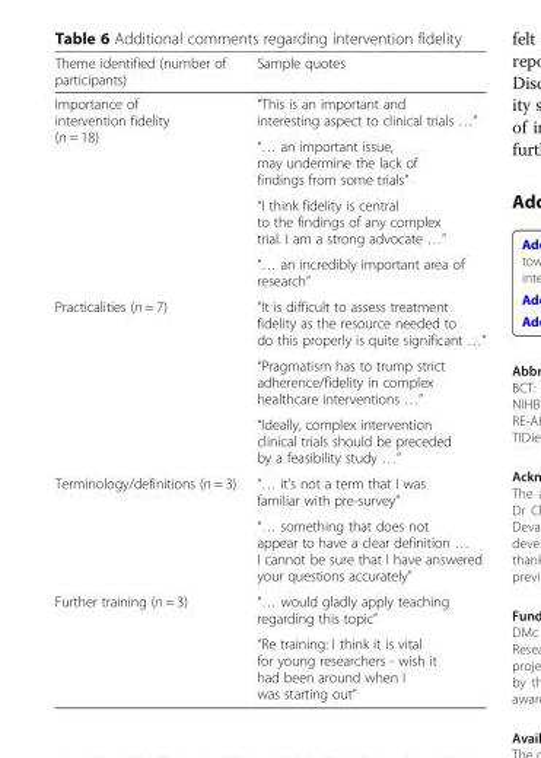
<table><thead><tr><td>Theme identified (number of participants)</td><td>Sample quotes</td></tr></thead><tbody><tr><td rowspan="4">Importance of intervention fidelity (n = 18)</td><td>“This is an important and interesting aspect to clinical trials …”</td></tr><tr><td>“… an important issue, may undermine the lack of findings from some trials”</td></tr><tr><td>“I think fidelity is central to the findings of any complex trial. I am a strong advocate …”</td></tr><tr><td>“… an incredibly important area of research”</td></tr><tr><td rowspan="3">Practicalities (n = 7)</td><td>“It is difficult to assess treatment fidelity as the resource needed to do this properly is quite significant …”</td></tr><tr><td>“Pragmatism has to trump strict adherence/fidelity in complex healthcare interventions …”</td></tr><tr><td>“Ideally, complex intervention clinical trials should be preceded by a feasibility study …”</td></tr><tr><td rowspan="2">Terminology/definitions (n = 3)</td><td>“… it’s not a term that I was familiar with pre-survey”</td></tr><tr><td>“… something that does not appear to have a clear definition … I cannot be sure that I have answered your questions accurately”</td></tr><tr><td rowspan="2">Further training (n = 3)</td><td>“… would gladly apply teaching regarding this topic”</td></tr><tr><td>“Re training: I think it is vital for young researchers - wish it had been around when I was starting out”</td></tr></tbody></table>